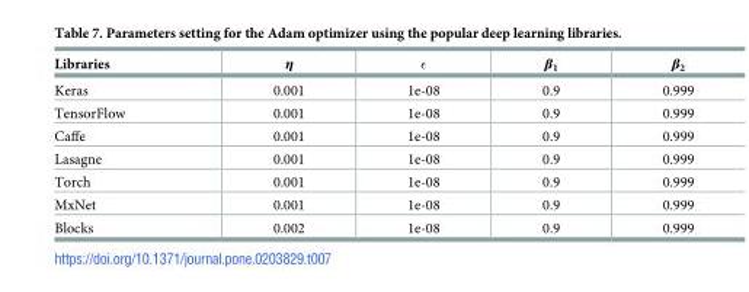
<table><thead><tr><td>Libraries</td><td>η</td><td>ϵ</td><td>β<sub>1</sub></td><td>β<sub>2</sub></td></tr></thead><tbody><tr><td>Keras</td><td>0.001</td><td>1e-08</td><td>0.9</td><td>0.999</td></tr><tr><td>TensorFlow</td><td>0.001</td><td>1e-08</td><td>0.9</td><td>0.999</td></tr><tr><td>Caffe</td><td>0.001</td><td>1e-08</td><td>0.9</td><td>0.999</td></tr><tr><td>Lasagne</td><td>0.001</td><td>1e-08</td><td>0.9</td><td>0.999</td></tr><tr><td>Torch</td><td>0.001</td><td>1e-08</td><td>0.9</td><td>0.999</td></tr><tr><td>MxNet</td><td>0.001</td><td>1e-08</td><td>0.9</td><td>0.999</td></tr><tr><td>Blocks</td><td>0.002</td><td>1e-08</td><td>0.9</td><td>0.999</td></tr></tbody></table>